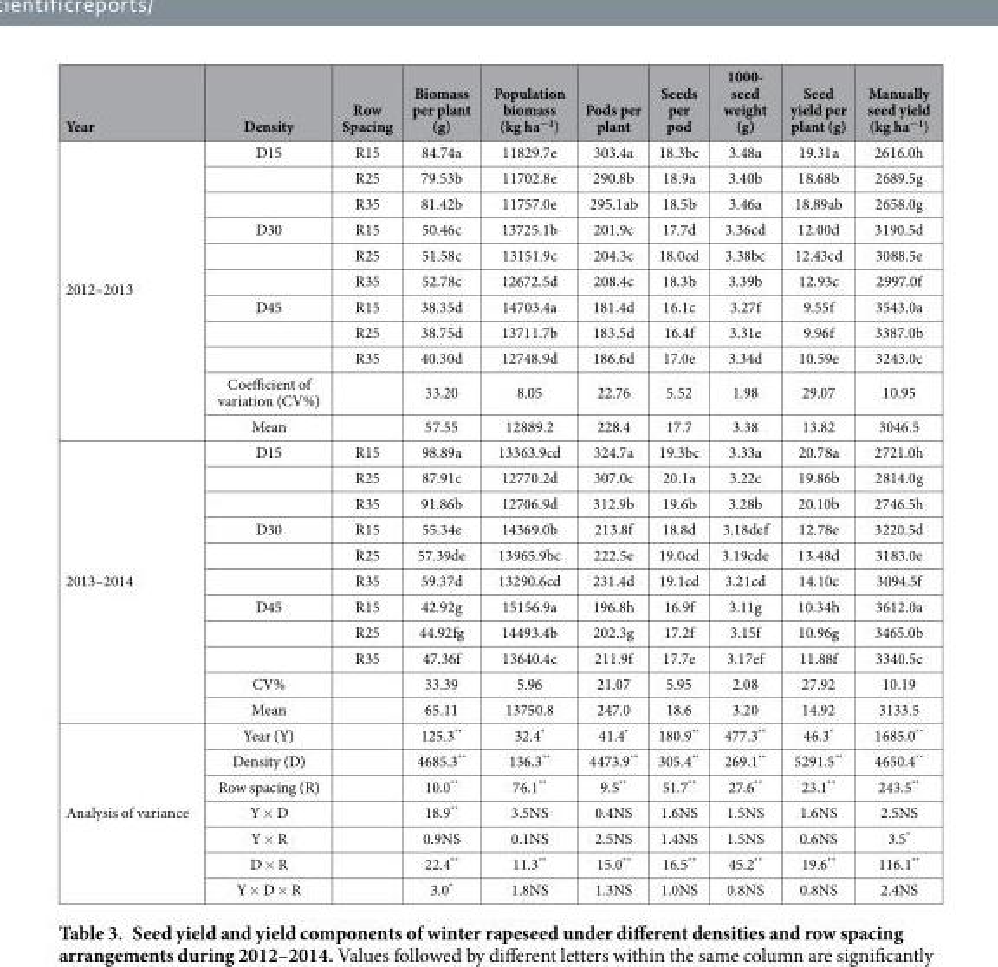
<table><thead><tr><td>Year</td><td>Density</td><td>Row Spacing</td><td>Biomass per plant (g)</td><td>Population biomass (kg ha<sup>−1</sup>)</td><td>Pods per plant</td><td>Seeds per pod</td><td>1000- seed weight (g)</td><td>Seed yield per plant (g)</td><td>Manually seed yield (kg ha<sup>−1</sup>)</td></tr></thead><tbody><tr><td rowspan="11">2012–2013</td><td>D15</td><td>R15</td><td>84.74a</td><td>11829.7e</td><td>303.4a</td><td>18.3bc</td><td>3.48a</td><td>19.31a</td><td>2616.0h</td></tr><tr><td></td><td>R25</td><td>79.53b</td><td>11702.8e</td><td>290.8b</td><td>18.9a</td><td>3.40b</td><td>18.68b</td><td>2689.5g</td></tr><tr><td></td><td>R35</td><td>81.42b</td><td>11757.0e</td><td>295.1ab</td><td>18.5b</td><td>3.46a</td><td>18.89ab</td><td>2658.0g</td></tr><tr><td>D30</td><td>R15</td><td>50.46c</td><td>13725.1b</td><td>201.9c</td><td>17.7d</td><td>3.36cd</td><td>12.00d</td><td>3190.5d</td></tr><tr><td></td><td>R25</td><td>51.58c</td><td>13151.9c</td><td>204.3c</td><td>18.0cd</td><td>3.38bc</td><td>12.43cd</td><td>3088.5e</td></tr><tr><td></td><td>R35</td><td>52.78c</td><td>12672.5d</td><td>208.4c</td><td>18.3b</td><td>3.39b</td><td>12.93c</td><td>2997.0f</td></tr><tr><td>D45</td><td>R15</td><td>38.35d</td><td>14703.4a</td><td>181.4d</td><td>16.1c</td><td>3.27f</td><td>9.55f</td><td>3543.0a</td></tr><tr><td></td><td>R25</td><td>38.75d</td><td>13711.7b</td><td>183.5d</td><td>16.4f</td><td>3.31e</td><td>9.96f</td><td>3387.0b</td></tr><tr><td></td><td>R35</td><td>40.30d</td><td>12748.9d</td><td>186.6d</td><td>17.0e</td><td>3.34d</td><td>10.59e</td><td>3243.0c</td></tr><tr><td>Coefficient of variation (CV%)</td><td></td><td>33.20</td><td>8.05</td><td>22.76</td><td>5.52</td><td>1.98</td><td>29.07</td><td>10.95</td></tr><tr><td>Mean</td><td></td><td>57.55</td><td>12889.2</td><td>228.4</td><td>17.7</td><td>3.38</td><td>13.82</td><td>3046.5</td></tr><tr><td rowspan="11">2013–2014</td><td>D15</td><td>R15</td><td>98.89a</td><td>13363.9cd</td><td>324.7a</td><td>19.3bc</td><td>3.33a</td><td>20.78a</td><td>2721.0h</td></tr><tr><td></td><td>R25</td><td>87.91c</td><td>12770.2d</td><td>307.0c</td><td>20.1a</td><td>3.22c</td><td>19.86b</td><td>2814.0g</td></tr><tr><td></td><td>R35</td><td>91.86b</td><td>12706.9d</td><td>312.9b</td><td>19.6b</td><td>3.28b</td><td>20.10b</td><td>2746.5h</td></tr><tr><td>D30</td><td>R15</td><td>55.34e</td><td>14369.0b</td><td>213.8f</td><td>18.8d</td><td>3.18def</td><td>12.78e</td><td>3220.5d</td></tr><tr><td></td><td>R25</td><td>57.39de</td><td>13965.9bc</td><td>222.5e</td><td>19.0cd</td><td>3.19cde</td><td>13.48d</td><td>3183.0e</td></tr><tr><td></td><td>R35</td><td>59.37d</td><td>13290.6cd</td><td>231.4d</td><td>19.1cd</td><td>3.21cd</td><td>14.10c</td><td>3094.5f</td></tr><tr><td>D45</td><td>R15</td><td>42.92g</td><td>15156.9a</td><td>196.8h</td><td>16.9f</td><td>3.11g</td><td>10.34h</td><td>3612.0a</td></tr><tr><td></td><td>R25</td><td>44.92fg</td><td>14493.4b</td><td>202.3g</td><td>17.2f</td><td>3.15f</td><td>10.96g</td><td>3465.0b</td></tr><tr><td></td><td>R35</td><td>47.36f</td><td>13640.4c</td><td>211.9f</td><td>17.7e</td><td>3.17ef</td><td>11.88f</td><td>3340.5c</td></tr><tr><td>CV%</td><td></td><td>33.39</td><td>5.96</td><td>21.07</td><td>5.95</td><td>2.08</td><td>27.92</td><td>10.19</td></tr><tr><td>Mean</td><td></td><td>65.11</td><td>13750.8</td><td>247.0</td><td>18.6</td><td>3.20</td><td>14.92</td><td>3133.5</td></tr><tr><td rowspan="7">Analysis of variance</td><td>Year (Y)</td><td></td><td>125.3**</td><td>32.4*</td><td>41.4*</td><td>180.9**</td><td>477.3**</td><td>46.3*</td><td>1685.0**</td></tr><tr><td>Density (D)</td><td></td><td>4685.3**</td><td>136.3**</td><td>4473.9**</td><td>305.4**</td><td>269.1**</td><td>5291.5**</td><td>4650.4**</td></tr><tr><td>Row spacing (R)</td><td></td><td>10.0**</td><td>76.1**</td><td>9.5**</td><td>51.7**</td><td>27.6**</td><td>23.1**</td><td>243.5**</td></tr><tr><td>Y × D</td><td></td><td>18.9**</td><td>3.5NS</td><td>0.4NS</td><td>1.6NS</td><td>1.5NS</td><td>1.6NS</td><td>2.5NS</td></tr><tr><td>Y × R</td><td></td><td>0.9NS</td><td>0.1NS</td><td>2.5NS</td><td>1.4NS</td><td>1.5NS</td><td>0.6NS</td><td>3.5*</td></tr><tr><td>D × R</td><td></td><td>22.4**</td><td>11.3**</td><td>15.0**</td><td>16.5**</td><td>45.2**</td><td>19.6**</td><td>116.1**</td></tr><tr><td>Y × D × R</td><td></td><td>3.0*</td><td>1.8NS</td><td>1.3NS</td><td>1.0NS</td><td>0.8NS</td><td>0.8NS</td><td>2.4NS</td></tr></tbody></table>